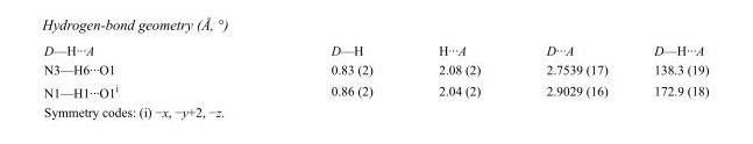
<table><tbody><tr><td>D—H···A</td><td>D—H</td><td>H···A</td><td>D···A</td><td>D—H···A</td></tr><tr><td>N3—H6···O1</td><td>0.83 (2)</td><td>2.08 (2)</td><td>2.7539 (17)</td><td>138.3 (19)</td></tr><tr><td>N1—H1···O1<sup>i</sup></td><td>0.86 (2)</td><td>2.04 (2)</td><td>2.9029 (16)</td><td>172.9 (18)</td></tr></tbody></table>